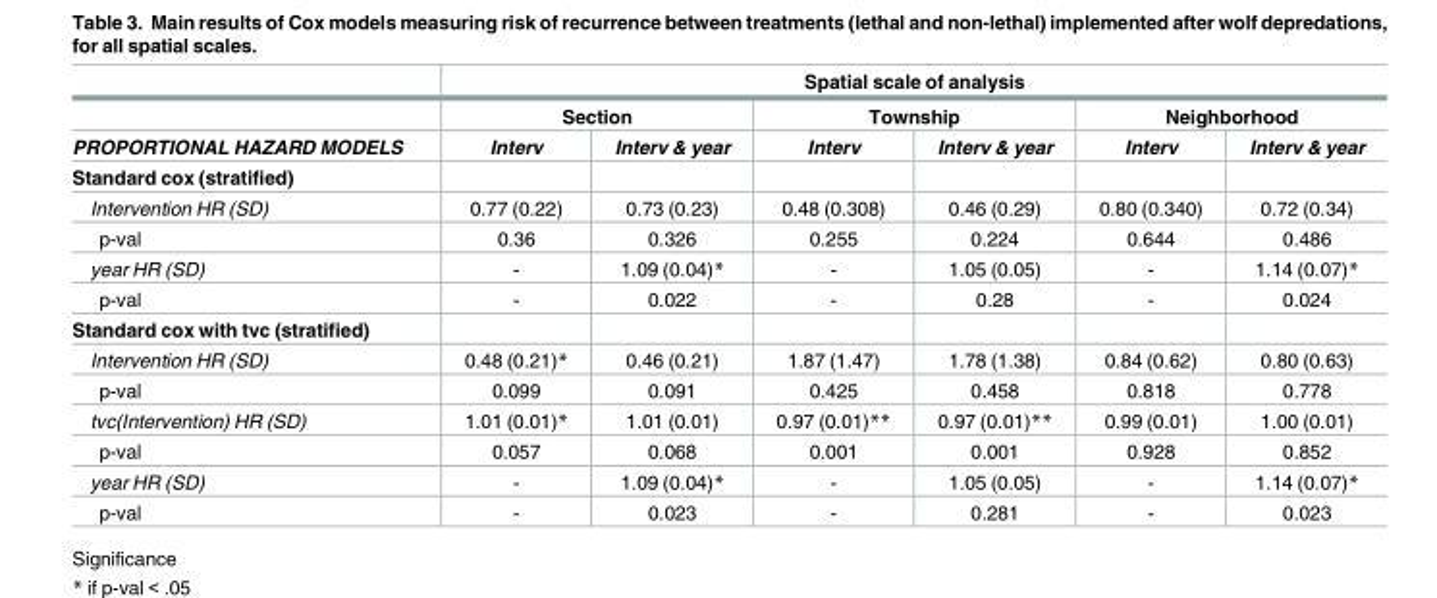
<table><thead><tr><td rowspan="3">PROPORTIONAL HAZARD MODELS</td><td colspan="6">Spatial scale of analysis</td></tr><tr><td colspan="2">Section</td><td colspan="2">Township</td><td colspan="2">Neighborhood</td></tr><tr><td>Interv</td><td>Interv &amp; year</td><td>Interv</td><td>Interv &amp; year</td><td>Interv</td><td>Interv &amp; year</td></tr></thead><tbody><tr><td colspan="7">Standard cox (stratified)</td></tr><tr><td>Intervention HR (SD)</td><td>0.77 (0.22)</td><td>0.73 (0.23)</td><td>0.48 (0.308)</td><td>0.46 (0.29)</td><td>0.80 (0.340)</td><td>0.72 (0.34)</td></tr><tr><td>p-val</td><td>0.36</td><td>0.326</td><td>0.255</td><td>0.224</td><td>0.644</td><td>0.486</td></tr><tr><td>year HR (SD)</td><td>-</td><td>1.09 (0.04)*</td><td>-</td><td>1.05 (0.05)</td><td>-</td><td>1.14 (0.07)*</td></tr><tr><td>p-val</td><td>-</td><td>0.022</td><td>-</td><td>0.28</td><td>-</td><td>0.024</td></tr><tr><td colspan="7">Standard cox with tvc (stratified)</td></tr><tr><td>Intervention HR (SD)</td><td>0.48 (0.21)*</td><td>0.46 (0.21)</td><td>1.87 (1.47)</td><td>1.78 (1.38)</td><td>0.84 (0.62)</td><td>0.80 (0.63)</td></tr><tr><td>p-val</td><td>0.099</td><td>0.091</td><td>0.425</td><td>0.458</td><td>0.818</td><td>0.778</td></tr><tr><td>tvc(Intervention) HR (SD)</td><td>1.01 (0.01)*</td><td>1.01 (0.01)</td><td>0.97 (0.01)**</td><td>0.97 (0.01)**</td><td>0.99 (0.01)</td><td>1.00 (0.01)</td></tr><tr><td>p-val</td><td>0.057</td><td>0.068</td><td>0.001</td><td>0.001</td><td>0.928</td><td>0.852</td></tr><tr><td>year HR (SD)</td><td>-</td><td>1.09 (0.04)*</td><td>-</td><td>1.05 (0.05)</td><td>-</td><td>1.14 (0.07)*</td></tr><tr><td>p-val</td><td>-</td><td>0.023</td><td>-</td><td>0.281</td><td>-</td><td>0.023</td></tr></tbody></table>